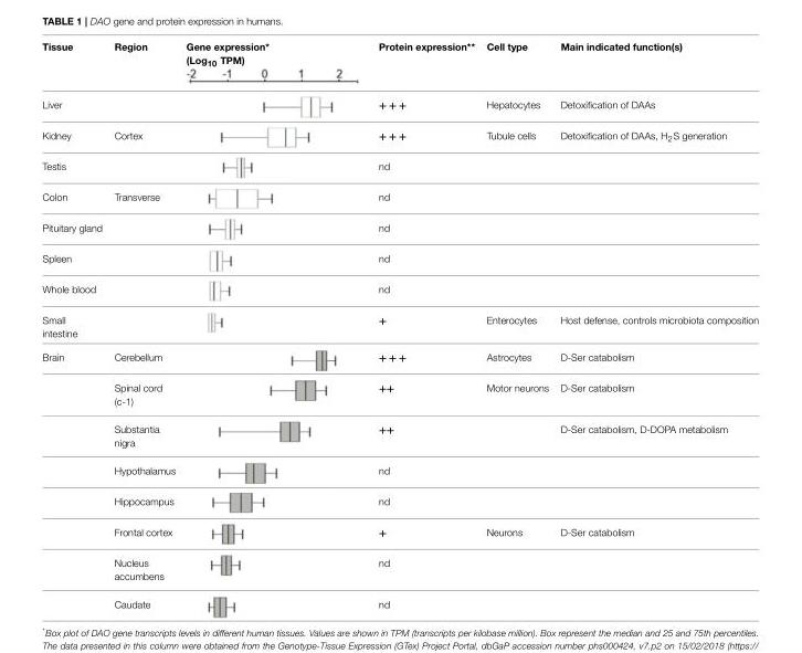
<table><thead><tr><td>Tissue</td><td>Region</td><td>Gene expression* (Log<sub>10</sub> TPM)</td><td>Protein expression**</td><td>Cell type</td><td>Main indicated function(s)</td></tr></thead><tbody><tr><td>Liver</td><td></td><td></td><td>+ + +</td><td>Hepatocytes</td><td>Detoxification of DAAs</td></tr><tr><td>Kidney</td><td>Cortex</td><td></td><td>+ + +</td><td>Tubule cells</td><td>Detoxification of DAAs, H<sub>2</sub>S generation</td></tr><tr><td>Testis</td><td></td><td></td><td>nd</td><td></td><td></td></tr><tr><td>Colon</td><td>Transverse</td><td></td><td>nd</td><td></td><td></td></tr><tr><td>Pituitary gland</td><td></td><td></td><td>nd</td><td></td><td></td></tr><tr><td>Spleen</td><td></td><td></td><td>nd</td><td></td><td></td></tr><tr><td>Whole blood</td><td></td><td></td><td>nd</td><td></td><td></td></tr><tr><td>Small intestine</td><td></td><td></td><td>+</td><td>Enterocytes</td><td>Host defense, controls microbiota composition</td></tr><tr><td rowspan="8">Brain</td><td>Cerebellum</td><td></td><td>+ + +</td><td>Astrocytes</td><td>D-Ser catabolism</td></tr><tr><td>Spinal cord (c-1)</td><td></td><td>++</td><td>Motor neurons</td><td>D-Ser catabolism</td></tr><tr><td>Substantia nigra</td><td></td><td>++</td><td></td><td>D-Ser catabolism, D-DOPA metabolism</td></tr><tr><td>Hypothalamus</td><td></td><td>nd</td><td></td><td></td></tr><tr><td>Hippocampus</td><td></td><td>nd</td><td></td><td></td></tr><tr><td>Frontal cortex</td><td></td><td>+</td><td>Neurons</td><td>D-Ser catabolism</td></tr><tr><td>Nucleus accumbens</td><td></td><td>nd</td><td></td><td></td></tr><tr><td>Caudate</td><td></td><td>nd</td><td></td><td></td></tr></tbody></table>